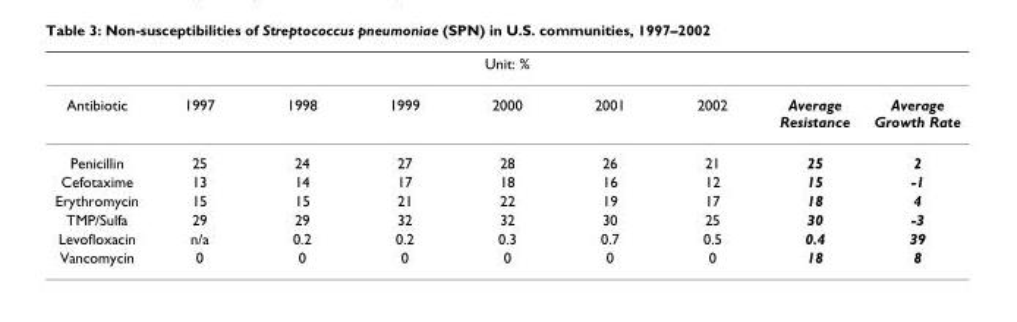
<table><thead><tr><td colspan="9">Unit: %</td></tr><tr><td>Antibiotic</td><td>1997</td><td>1998</td><td>1999</td><td>2000</td><td>2001</td><td>2002</td><td>Average Resistance</td><td>Average Growth Rate</td></tr></thead><tbody><tr><td>Penicillin</td><td>25</td><td>24</td><td>27</td><td>28</td><td>26</td><td>21</td><td>25</td><td>2</td></tr><tr><td>Cefotaxime</td><td>13</td><td>14</td><td>17</td><td>18</td><td>16</td><td>12</td><td>15</td><td>-1</td></tr><tr><td>Erythromycin</td><td>15</td><td>15</td><td>21</td><td>22</td><td>19</td><td>17</td><td>18</td><td>4</td></tr><tr><td>TMP/Sulfa</td><td>29</td><td>29</td><td>32</td><td>32</td><td>30</td><td>25</td><td>30</td><td>-3</td></tr><tr><td>Levofloxacin</td><td>n/a</td><td>0.2</td><td>0.2</td><td>0.3</td><td>0.7</td><td>0.5</td><td>0.4</td><td>39</td></tr><tr><td>Vancomycin</td><td>0</td><td>0</td><td>0</td><td>0</td><td>0</td><td>0</td><td>18</td><td>8</td></tr></tbody></table>